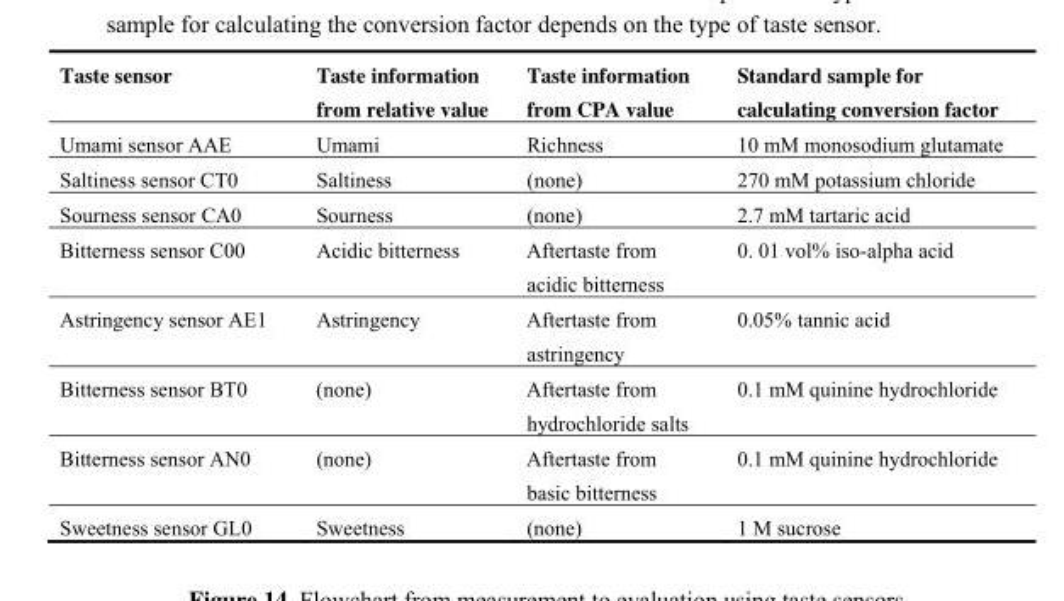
<table><thead><tr><td>Taste sensor</td><td>Taste information from relative value</td><td>Taste information from CPA value</td><td>Standard sample for calculating conversion factor</td></tr></thead><tbody><tr><td>Umami sensor AAE</td><td>Umami</td><td>Richness</td><td>10 mM monosodium glutamate</td></tr><tr><td>Saltiness sensor CT0</td><td>Saltiness</td><td>(none)</td><td>270 mM potassium chloride</td></tr><tr><td>Sourness sensor CA0</td><td>Sourness</td><td>(none)</td><td>2.7 mM tartaric acid</td></tr><tr><td>Bitterness sensor C00</td><td>Acidic bitterness</td><td>Aftertaste from acidic bitterness</td><td>0. 01 vol% iso-alpha acid</td></tr><tr><td>Astringency sensor AE1</td><td>Astringency</td><td>Aftertaste from astringency</td><td>0.05% tannic acid</td></tr><tr><td>Bitterness sensor BT0</td><td>(none)</td><td>Aftertaste from hydrochloride salts</td><td>0.1 mM quinine hydrochloride</td></tr><tr><td>Bitterness sensor AN0</td><td>(none)</td><td>Aftertaste from basic bitterness</td><td>0.1 mM quinine hydrochloride</td></tr><tr><td>Sweetness sensor GL0</td><td>Sweetness</td><td>(none)</td><td>1 M sucrose</td></tr></tbody></table>